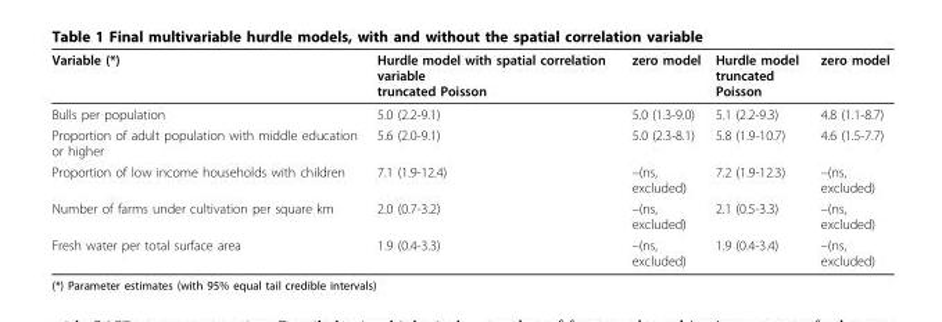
<table><thead><tr><td>Variable (*)</td><td>Hurdle model with spatial correlation variable truncated Poisson</td><td>zero model</td><td>Hurdle model truncated Poisson</td><td>zero model</td></tr></thead><tbody><tr><td>Bulls per population</td><td>5.0 (2.2-9.1)</td><td>5.0 (1.3-9.0)</td><td>5.1 (2.2-9.3)</td><td>4.8 (1.1-8.7)</td></tr><tr><td>Proportion of adult population with middle education or higher</td><td>5.6 (2.0-9.1)</td><td>5.0 (2.3-8.1)</td><td>5.8 (1.9-10.7)</td><td>4.6 (1.5-7.7)</td></tr><tr><td>Proportion of low income households with children</td><td>7.1 (1.9-12.4)</td><td>–(ns, excluded)</td><td>7.2 (1.9-12.3)</td><td>–(ns, excluded)</td></tr><tr><td>Number of farms under cultivation per square km</td><td>2.0 (0.7-3.2)</td><td>–(ns, excluded)</td><td>2.1 (0.5-3.3)</td><td>–(ns, excluded)</td></tr><tr><td>Fresh water per total surface area</td><td>1.9 (0.4-3.3)</td><td>–(ns, excluded)</td><td>1.9 (0.4-3.4)</td><td>–(ns, excluded)</td></tr></tbody></table>